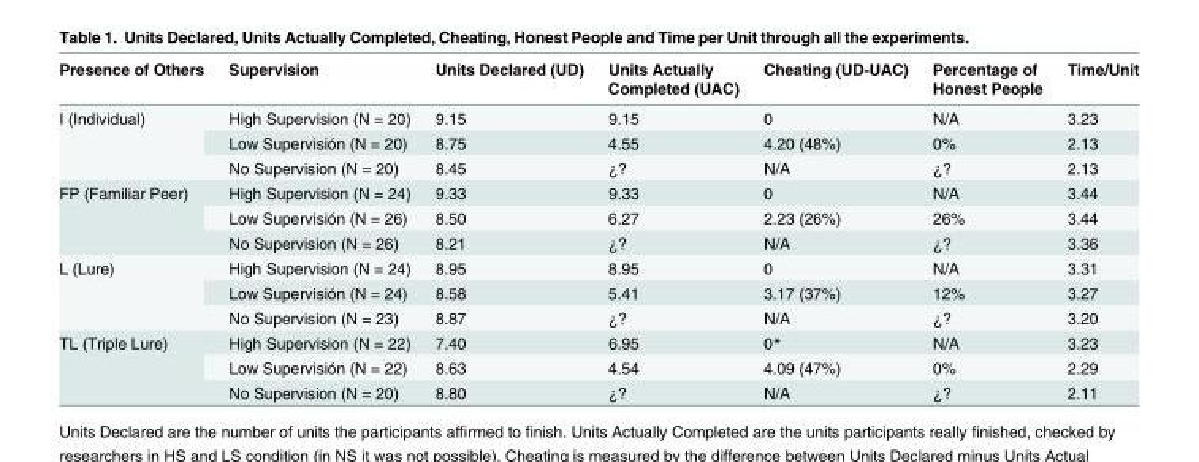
<table><thead><tr><td>Presence of Others</td><td>Supervision</td><td>Units Declared (UD)</td><td>Units Actually Completed (UAC)</td><td>Cheating (UD-UAC)</td><td>Percentage of Honest People</td><td>Time/Unit</td></tr></thead><tbody><tr><td rowspan="3">I (Individual)</td><td>High Supervision (N = 20)</td><td>9.15</td><td>9.15</td><td>0</td><td>N/A</td><td>3.23</td></tr><tr><td>Low Supervisión (N = 20)</td><td>8.75</td><td>4.55</td><td>4.20 (48%)</td><td>0%</td><td>2.13</td></tr><tr><td>No Supervision (N = 20)</td><td>8.45</td><td>¿?</td><td>N/A</td><td>¿?</td><td>2.13</td></tr><tr><td rowspan="3">FP (Familiar Peer)</td><td>High Supervision (N = 24)</td><td>9.33</td><td>9.33</td><td>0</td><td>N/A</td><td>3.44</td></tr><tr><td>Low Supervisión (N = 26)</td><td>8.50</td><td>6.27</td><td>2.23 (26%)</td><td>26%</td><td>3.44</td></tr><tr><td>No Supervision (N = 26)</td><td>8.21</td><td>¿?</td><td>N/A</td><td>¿?</td><td>3.36</td></tr><tr><td rowspan="3">L (Lure)</td><td>High Supervision (N = 24)</td><td>8.95</td><td>8.95</td><td>0</td><td>N/A</td><td>3.31</td></tr><tr><td>Low Supervisión (N = 24)</td><td>8.58</td><td>5.41</td><td>3.17 (37%)</td><td>12%</td><td>3.27</td></tr><tr><td>No Supervision (N = 23)</td><td>8.87</td><td>¿?</td><td>N/A</td><td>¿?</td><td>3.20</td></tr><tr><td rowspan="3">TL (Triple Lure)</td><td>High Supervision (N = 22)</td><td>7.40</td><td>6.95</td><td>0*</td><td>N/A</td><td>3.23</td></tr><tr><td>Low Supervisión (N = 22)</td><td>8.63</td><td>4.54</td><td>4.09 (47%)</td><td>0%</td><td>2.29</td></tr><tr><td>No Supervision (N = 20)</td><td>8.80</td><td>¿?</td><td>N/A</td><td>¿?</td><td>2.11</td></tr></tbody></table>